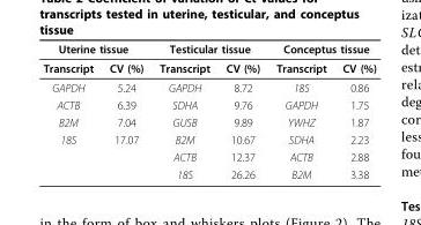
<table><thead><tr><td colspan="2">Uterine tissue</td><td colspan="2">Testicular tissue</td><td colspan="2">Conceptus tissue</td></tr><tr><td>Transcript</td><td>CV (%)</td><td>Transcript</td><td>CV (%)</td><td>Transcript</td><td>CV (%)</td></tr></thead><tbody><tr><td>GAPDH</td><td>5.24</td><td>GAPDH</td><td>8.72</td><td>18S</td><td>0.86</td></tr><tr><td>ACTB</td><td>6.39</td><td>SDHA</td><td>9.76</td><td>GAPDH</td><td>1.75</td></tr><tr><td>B2M</td><td>7.04</td><td>GUSB</td><td>9.89</td><td>YWHZ</td><td>1.87</td></tr><tr><td rowspan="3">18S</td><td>17.07</td><td>B2M</td><td>10.67</td><td>SDHA</td><td>2.23</td></tr><tr><td></td><td>ACTB</td><td>12.37</td><td>ACTB</td><td>2.88</td></tr><tr><td></td><td>18S</td><td>26.26</td><td>B2M</td><td>3.38</td></tr></tbody></table>